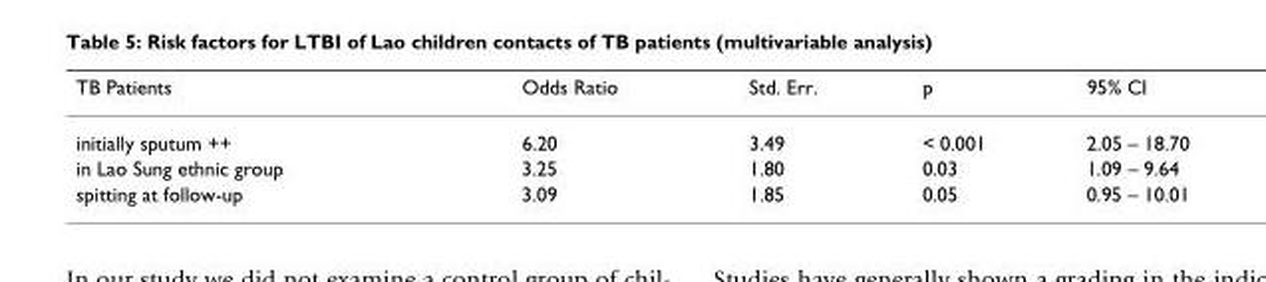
<table><thead><tr><td>TB Patients</td><td>Odds Ratio</td><td>Std. Err.</td><td>p</td><td>95% CI</td></tr></thead><tbody><tr><td>initially sputum ++</td><td>6.20</td><td>3.49</td><td>&lt; 0.001</td><td>2.05 – 18.70</td></tr><tr><td>in Lao Sung ethnic group</td><td>3.25</td><td>1.80</td><td>0.03</td><td>1.09 – 9.64</td></tr><tr><td>spitting at follow-up</td><td>3.09</td><td>1.85</td><td>0.05</td><td>0.95 – 10.01</td></tr></tbody></table>